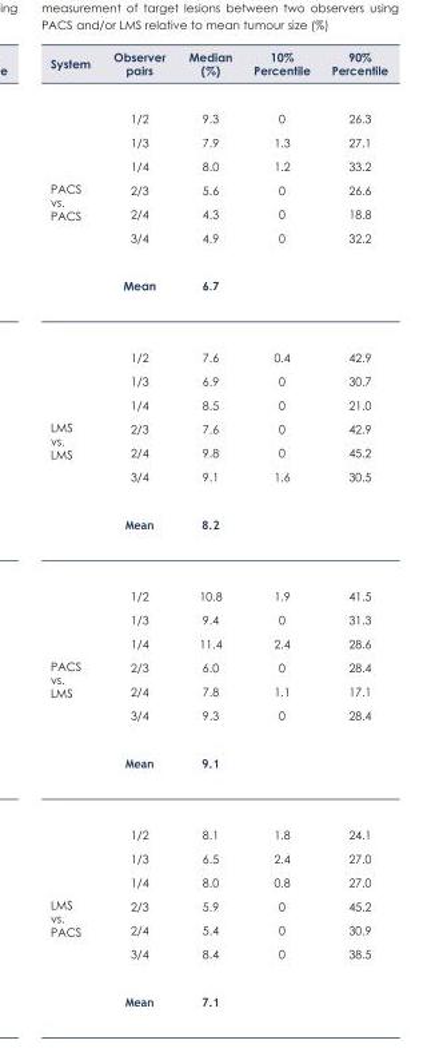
<table><thead><tr><td>System</td><td>Observer pairs</td><td>Median (%)</td><td>10% Percentile</td><td>90% Percentile</td></tr></thead><tbody><tr><td rowspan="7">PACS vs. PACS</td><td>1/2</td><td>9.3</td><td>0</td><td>26.3</td></tr><tr><td>1/3</td><td>7.9</td><td>1.3</td><td>27.1</td></tr><tr><td>1/4</td><td>8.0</td><td>1.2</td><td>33.2</td></tr><tr><td>2/3</td><td>5.6</td><td>0</td><td>26.6</td></tr><tr><td>2/4</td><td>4.3</td><td>0</td><td>18.8</td></tr><tr><td>3/4</td><td>4.9</td><td>0</td><td>32.2</td></tr><tr><td>Mean</td><td>6.7</td><td></td><td></td></tr><tr><td rowspan="7">LMS vs. LMS</td><td>1/2</td><td>7.6</td><td>0.4</td><td>42.9</td></tr><tr><td>1/3</td><td>6.9</td><td>0</td><td>30.7</td></tr><tr><td>1/4</td><td>8.5</td><td>0</td><td>21.0</td></tr><tr><td>2/3</td><td>7.6</td><td>0</td><td>42.9</td></tr><tr><td>2/4</td><td>9.8</td><td>0</td><td>45.2</td></tr><tr><td>3/4</td><td>9.1</td><td>1.6</td><td>30.5</td></tr><tr><td>Mean</td><td>8.2</td><td></td><td></td></tr><tr><td rowspan="7">PACS vs. LMS</td><td>1/2</td><td>10.8</td><td>1.9</td><td>41.5</td></tr><tr><td>1/3</td><td>9.4</td><td>0</td><td>31.3</td></tr><tr><td>1/4</td><td>11.4</td><td>2.4</td><td>28.6</td></tr><tr><td>2/3</td><td>6.0</td><td>0</td><td>28.4</td></tr><tr><td>2/4</td><td>7.8</td><td>1.1</td><td>17.1</td></tr><tr><td>3/4</td><td>9.3</td><td>0</td><td>28.4</td></tr><tr><td>Mean</td><td>9.1</td><td></td><td></td></tr><tr><td rowspan="7">LMS vs. PACS</td><td>1/2</td><td>8.1</td><td>1.8</td><td>24.1</td></tr><tr><td>1/3</td><td>6.5</td><td>2.4</td><td>27.0</td></tr><tr><td>1/4</td><td>8.0</td><td>0.8</td><td>27.0</td></tr><tr><td>2/3</td><td>5.9</td><td>0</td><td>45.2</td></tr><tr><td>2/4</td><td>5.4</td><td>0</td><td>30.9</td></tr><tr><td>3/4</td><td>8.4</td><td>0</td><td>38.5</td></tr><tr><td>Mean</td><td>7.1</td><td></td><td></td></tr></tbody></table>